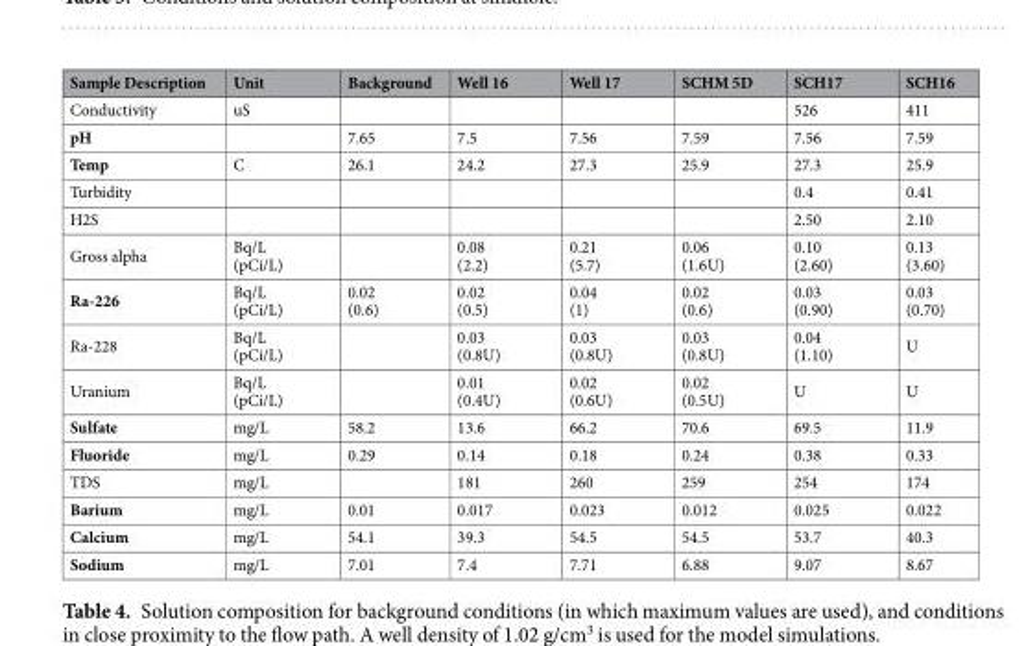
<table><thead><tr><td>Sample Description</td><td>Unit</td><td>Background</td><td>Well 16</td><td>Well 17</td><td>SCHM 5D</td><td>SCH17</td><td>SCH16</td></tr></thead><tbody><tr><td>Conductivity</td><td>uS</td><td></td><td></td><td></td><td></td><td>526</td><td>411</td></tr><tr><td>pH</td><td></td><td>7.65</td><td>7.5</td><td>7.56</td><td>7.59</td><td>7.56</td><td>7.59</td></tr><tr><td>Temp</td><td>C</td><td>26.1</td><td>24.2</td><td>27.3</td><td>25.9</td><td>27.3</td><td>25.9</td></tr><tr><td>Turbidity</td><td></td><td></td><td></td><td></td><td></td><td>0.4</td><td>0.41</td></tr><tr><td>H2S</td><td></td><td></td><td></td><td></td><td></td><td>2.50</td><td>2.10</td></tr><tr><td>Gross alpha</td><td>Bq/L (pCi/L)</td><td></td><td>0.08 (2.2)</td><td>0.21 (5.7)</td><td>0.06 (1.6U)</td><td>0.10 (2.60)</td><td>0.13 (3.60)</td></tr><tr><td>Ra-226</td><td>Bq/L (pCi/L)</td><td>0.02 (0.6)</td><td>0.02 (0.5)</td><td>0.04 (1)</td><td>0.02 (0.6)</td><td>0.03 (0.90)</td><td>0.03 (0.70)</td></tr><tr><td>Ra-228</td><td>Bq/L (pCi/L)</td><td></td><td>0.03 (0.8U)</td><td>0.03 (0.8U)</td><td>0.03 (0.8U)</td><td>0.04 (1.10)</td><td>U</td></tr><tr><td>Uranium</td><td>Bq/L (pCi/L)</td><td></td><td>0.01 (0.4U)</td><td>0.02 (0.6U)</td><td>0.02 (0.5U)</td><td>U</td><td>U</td></tr><tr><td>Sulfate</td><td>mg/L</td><td>58.2</td><td>13.6</td><td>66.2</td><td>70.6</td><td>69.5</td><td>11.9</td></tr><tr><td>Fluoride</td><td>mg/L</td><td>0.29</td><td>0.14</td><td>0.18</td><td>0.24</td><td>0.38</td><td>0.33</td></tr><tr><td>TDS</td><td>mg/L</td><td></td><td>181</td><td>260</td><td>259</td><td>254</td><td>174</td></tr><tr><td>Barium</td><td>mg/L</td><td>0.01</td><td>0.017</td><td>0.023</td><td>0.012</td><td>0.025</td><td>0.022</td></tr><tr><td>Calcium</td><td>mg/L</td><td>54.1</td><td>39.3</td><td>54.5</td><td>54.5</td><td>53.7</td><td>40.3</td></tr><tr><td>Sodium</td><td>mg/L</td><td>7.01</td><td>7.4</td><td>7.71</td><td>6.88</td><td>9.07</td><td>8.67</td></tr></tbody></table>